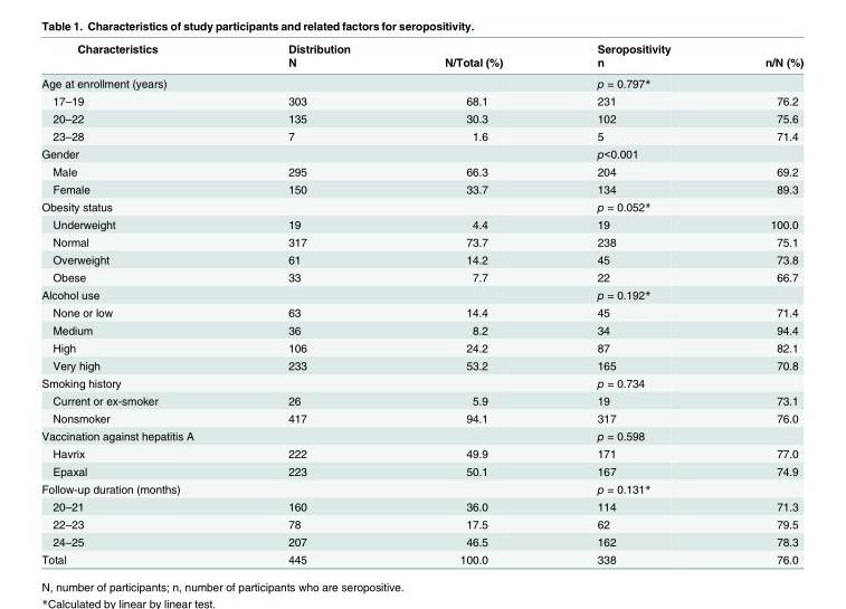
<table><thead><tr><td rowspan="2">Characteristics</td><td rowspan="2">Distribution N</td><td rowspan="2">N/Total (%)</td><td rowspan="2">Seropositivity n</td><td rowspan="2">n/N (%)</td></tr><tr></tr></thead><tbody><tr><td>Age at enrollment (years)</td><td></td><td></td><td>p = 0.797*</td><td></td></tr><tr><td>17–19</td><td>303</td><td>68.1</td><td>231</td><td>76.2</td></tr><tr><td>20–22</td><td>135</td><td>30.3</td><td>102</td><td>75.6</td></tr><tr><td>23–28</td><td>7</td><td>1.6</td><td>5</td><td>71.4</td></tr><tr><td>Gender</td><td></td><td></td><td>p&lt;0.001</td><td></td></tr><tr><td>Male</td><td>295</td><td>66.3</td><td>204</td><td>69.2</td></tr><tr><td>Female</td><td>150</td><td>33.7</td><td>134</td><td>89.3</td></tr><tr><td>Obesity status</td><td></td><td></td><td>p = 0.052*</td><td></td></tr><tr><td>Underweight</td><td>19</td><td>4.4</td><td>19</td><td>100.0</td></tr><tr><td>Normal</td><td>317</td><td>73.7</td><td>238</td><td>75.1</td></tr><tr><td>Overweight</td><td>61</td><td>14.2</td><td>45</td><td>73.8</td></tr><tr><td>Obese</td><td>33</td><td>7.7</td><td>22</td><td>66.7</td></tr><tr><td>Alcohol use</td><td></td><td></td><td>p = 0.192*</td><td></td></tr><tr><td>None or low</td><td>63</td><td>14.4</td><td>45</td><td>71.4</td></tr><tr><td>Medium</td><td>36</td><td>8.2</td><td>34</td><td>94.4</td></tr><tr><td>High</td><td>106</td><td>24.2</td><td>87</td><td>82.1</td></tr><tr><td>Very high</td><td>233</td><td>53.2</td><td>165</td><td>70.8</td></tr><tr><td>Smoking history</td><td></td><td></td><td>p = 0.734</td><td></td></tr><tr><td>Current or ex-smoker</td><td>26</td><td>5.9</td><td>19</td><td>73.1</td></tr><tr><td>Nonsmoker</td><td>417</td><td>94.1</td><td>317</td><td>76.0</td></tr><tr><td>Vaccination against hepatitis A</td><td></td><td></td><td>p = 0.598</td><td></td></tr><tr><td>Havrix</td><td>222</td><td>49.9</td><td>171</td><td>77.0</td></tr><tr><td>Epaxal</td><td>223</td><td>50.1</td><td>167</td><td>74.9</td></tr><tr><td>Follow-up duration (months)</td><td></td><td></td><td>p = 0.131*</td><td></td></tr><tr><td>20–21</td><td>160</td><td>36.0</td><td>114</td><td>71.3</td></tr><tr><td>22–23</td><td>78</td><td>17.5</td><td>62</td><td>79.5</td></tr><tr><td>24–25</td><td>207</td><td>46.5</td><td>162</td><td>78.3</td></tr><tr><td>Total</td><td>445</td><td>100.0</td><td>338</td><td>76.0</td></tr></tbody></table>